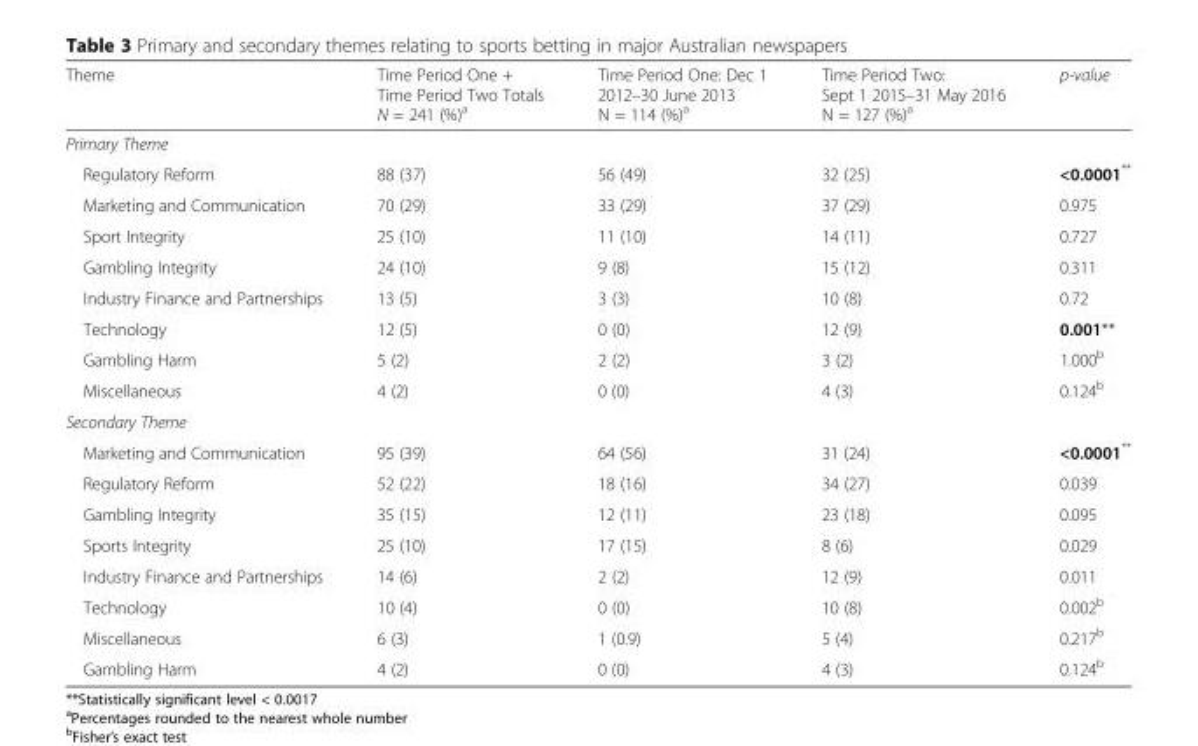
<table><thead><tr><td>Theme</td><td>Time Period One + Time Period Two Totals N = 241 (%)<sup>a</sup></td><td>Time Period One: Dec 1 2012–30 June 2013 N = 114 (%)<sup>a</sup></td><td>Time Period Two: Sept 1 2015–31 May 2016 N = 127 (%)<sup>a</sup></td><td>p-value</td></tr></thead><tbody><tr><td colspan="5">Primary Theme</td></tr><tr><td>Regulatory Reform</td><td>88 (37)</td><td>56 (49)</td><td>32 (25)</td><td>&lt;0.0001**</td></tr><tr><td>Marketing and Communication</td><td>70 (29)</td><td>33 (29)</td><td>37 (29)</td><td>0.975</td></tr><tr><td>Sport Integrity</td><td>25 (10)</td><td>11 (10)</td><td>14 (11)</td><td>0.727</td></tr><tr><td>Gambling Integrity</td><td>24 (10)</td><td>9 (8)</td><td>15 (12)</td><td>0.311</td></tr><tr><td>Industry Finance and Partnerships</td><td>13 (5)</td><td>3 (3)</td><td>10 (8)</td><td>0.72</td></tr><tr><td>Technology</td><td>12 (5)</td><td>0 (0)</td><td>12 (9)</td><td>0.001**</td></tr><tr><td>Gambling Harm</td><td>5 (2)</td><td>2 (2)</td><td>3 (2)</td><td>1.000<sup>b</sup></td></tr><tr><td>Miscellaneous</td><td>4 (2)</td><td>0 (0)</td><td>4 (3)</td><td>0.124<sup>b</sup></td></tr><tr><td colspan="5">Secondary Theme</td></tr><tr><td>Marketing and Communication</td><td>95 (39)</td><td>64 (56)</td><td>31 (24)</td><td>&lt;0.0001**</td></tr><tr><td>Regulatory Reform</td><td>52 (22)</td><td>18 (16)</td><td>34 (27)</td><td>0.039</td></tr><tr><td>Gambling Integrity</td><td>35 (15)</td><td>12 (11)</td><td>23 (18)</td><td>0.095</td></tr><tr><td>Sports Integrity</td><td>25 (10)</td><td>17 (15)</td><td>8 (6)</td><td>0.029</td></tr><tr><td>Industry Finance and Partnerships</td><td>14 (6)</td><td>2 (2)</td><td>12 (9)</td><td>0.011</td></tr><tr><td>Technology</td><td>10 (4)</td><td>0 (0)</td><td>10 (8)</td><td>0.002<sup>b</sup></td></tr><tr><td>Miscellaneous</td><td>6 (3)</td><td>1 (0.9)</td><td>5 (4)</td><td>0.217<sup>b</sup></td></tr><tr><td>Gambling Harm</td><td>4 (2)</td><td>0 (0)</td><td>4 (3)</td><td>0.124<sup>b</sup></td></tr></tbody></table>